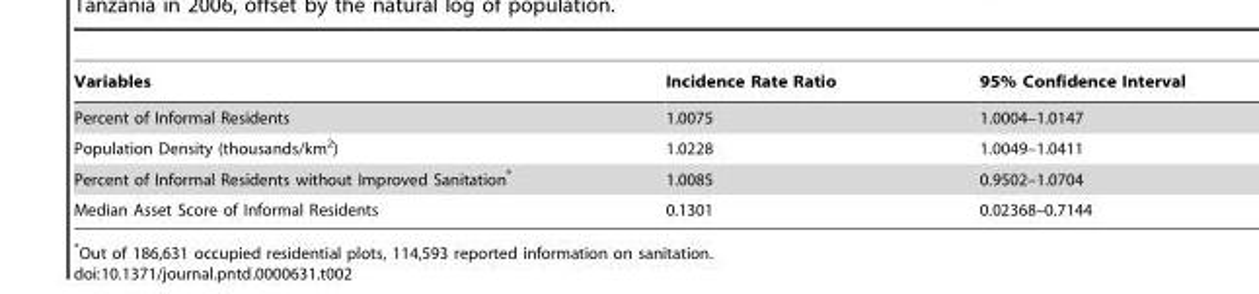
<table><thead><tr><td>Variables</td><td>Incidence Rate Ratio</td><td>95% Confidence Interval</td></tr></thead><tbody><tr><td>Percent of Informal Residents</td><td>1.0075</td><td>1.0004–1.0147</td></tr><tr><td>Population Density (thousands/km<sup>2</sup>)</td><td>1.0228</td><td>1.0049–1.0411</td></tr><tr><td>Percent of Informal Residents without Improved Sanitation*</td><td>1.0085</td><td>0.9502–1.0704</td></tr><tr><td>Median Asset Score of Informal Residents</td><td>0.1301</td><td>0.02368–0.7144</td></tr></tbody></table>